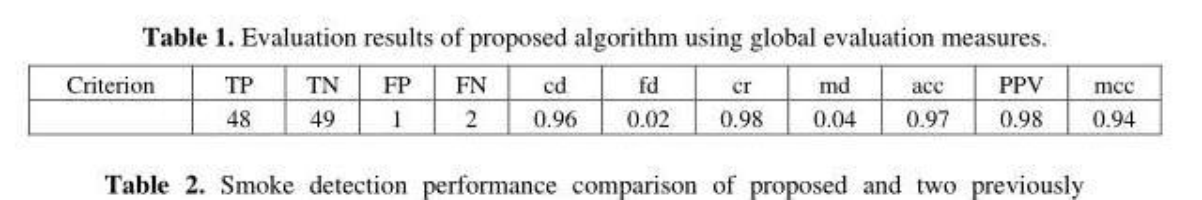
<table><thead><tr><td>Criterion</td><td>TP</td><td>TN</td><td>FP</td><td>FN</td><td>cd</td><td>fd</td><td>cr</td><td>md</td><td>acc</td><td>PPV</td><td>mcc</td></tr></thead><tbody><tr><td></td><td>48</td><td>49</td><td>1</td><td>2</td><td>0.96</td><td>0.02</td><td>0.98</td><td>0.04</td><td>0.97</td><td>0.98</td><td>0.94</td></tr></tbody></table>